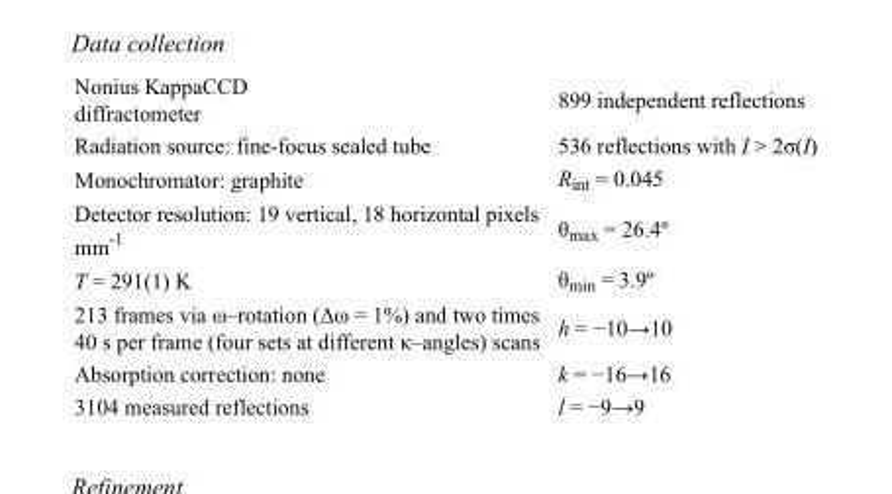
<table><tbody><tr><td>Nonius KappaCCD diffractometer</td><td>899 independent reflections</td></tr><tr><td>Radiation source: fine-focus sealed tube</td><td>536 reflections with I &gt; 2σ(I)</td></tr><tr><td>Monochromator: graphite</td><td>R<sub>int</sub> = 0.045</td></tr><tr><td>Detector resolution: 19 vertical, 18 horizontal pixels mm<sup>-1</sup></td><td>θ<sub>max</sub> = 26.4º</td></tr><tr><td>T = 291(1) K</td><td>θ<sub>min</sub> = 3.9º</td></tr><tr><td>213 frames via ω–rotation (Δω = 1%) and two times 40 s per frame (four sets at different κ–angles) scans</td><td>h = −10→10</td></tr><tr><td>Absorption correction: none</td><td>k = −16→16</td></tr><tr><td>3104 measured reflections</td><td>l = −9→9</td></tr></tbody></table>